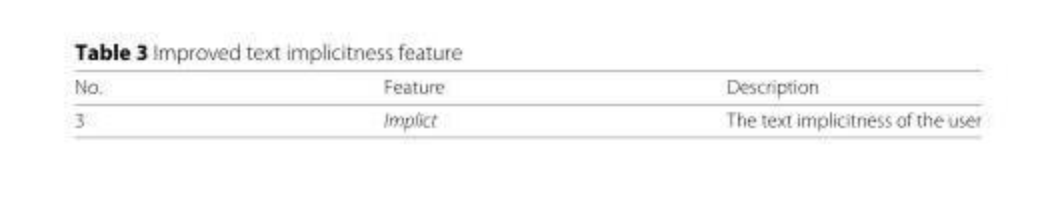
<table><thead><tr><td>No.</td><td>Feature</td><td>Description</td></tr></thead><tbody><tr><td>3</td><td>Implict</td><td>The text implicitness of the user</td></tr></tbody></table>